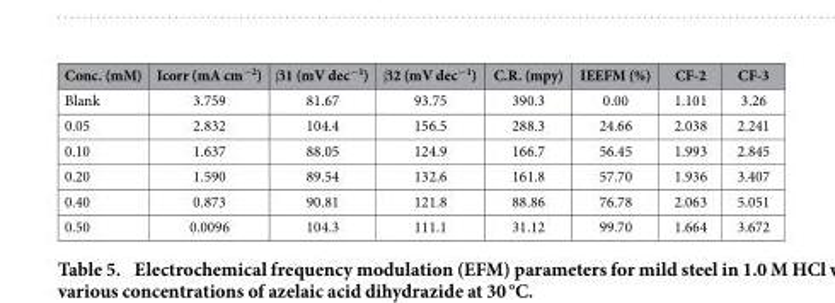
<table><thead><tr><td>Conc. (mM)</td><td>Icorr (mA cm<sup>−2</sup>)</td><td>β1 (mV dec<sup>−1</sup>)</td><td>β2 (mV dec<sup>−1</sup>)</td><td>C.R. (mpy)</td><td>IEEFM (%)</td><td>CF-2</td><td>CF-3</td></tr></thead><tbody><tr><td>Blank</td><td>3.759</td><td>81.67</td><td>93.75</td><td>390.3</td><td>0.00</td><td>1.101</td><td>3.26</td></tr><tr><td>0.05</td><td>2.832</td><td>104.4</td><td>156.5</td><td>288.3</td><td>24.66</td><td>2.038</td><td>2.241</td></tr><tr><td>0.10</td><td>1.637</td><td>88.05</td><td>124.9</td><td>166.7</td><td>56.45</td><td>1.993</td><td>2.845</td></tr><tr><td>0.20</td><td>1.590</td><td>89.54</td><td>132.6</td><td>161.8</td><td>57.70</td><td>1.936</td><td>3.407</td></tr><tr><td>0.40</td><td>0.873</td><td>90.81</td><td>121.8</td><td>88.86</td><td>76.78</td><td>2.063</td><td>5.051</td></tr><tr><td>0.50</td><td>0.0096</td><td>104.3</td><td>111.1</td><td>31.12</td><td>99.70</td><td>1.664</td><td>3.672</td></tr></tbody></table>